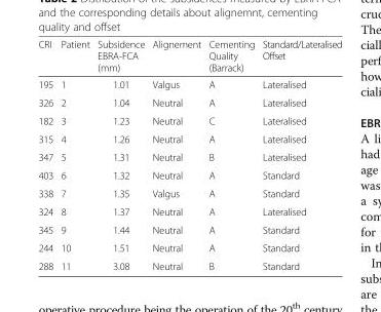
<table><thead><tr><td>CRI</td><td>Patient</td><td>Subsidence EBRA-FCA (mm)</td><td>Alignement</td><td>Cementing Quality (Barrack)</td><td>Standard/Lateralised Offset</td></tr></thead><tbody><tr><td>195</td><td>1</td><td>1.01</td><td>Valgus</td><td>A</td><td>Lateralised</td></tr><tr><td>326</td><td>2</td><td>1.04</td><td>Neutral</td><td>A</td><td>Lateralised</td></tr><tr><td>182</td><td>3</td><td>1.23</td><td>Neutral</td><td>C</td><td>Lateralised</td></tr><tr><td>315</td><td>4</td><td>1.26</td><td>Neutral</td><td>A</td><td>Lateralised</td></tr><tr><td>347</td><td>5</td><td>1.31</td><td>Neutral</td><td>B</td><td>Lateralised</td></tr><tr><td>403</td><td>6</td><td>1.32</td><td>Neutral</td><td>A</td><td>Standard</td></tr><tr><td>338</td><td>7</td><td>1.35</td><td>Valgus</td><td>A</td><td>Standard</td></tr><tr><td>324</td><td>8</td><td>1.37</td><td>Neutral</td><td>A</td><td>Lateralised</td></tr><tr><td>345</td><td>9</td><td>1.44</td><td>Neutral</td><td>A</td><td>Standard</td></tr><tr><td>244</td><td>10</td><td>1.51</td><td>Neutral</td><td>A</td><td>Standard</td></tr><tr><td>288</td><td>11</td><td>3.08</td><td>Neutral</td><td>B</td><td>Standard</td></tr></tbody></table>